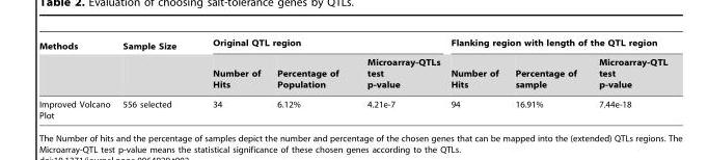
<table><thead><tr><td rowspan="2">Methods</td><td rowspan="2">Sample Size</td><td colspan="3">Original QTL region</td><td colspan="3">Flanking region with length of the QTL region</td></tr><tr><td>Number of Hits</td><td>Percentage of Population</td><td>Microarray-QTLs test p-value</td><td>Number of Hits</td><td>Percentage of sample</td><td>Microarray-QTL test p-value</td></tr></thead><tbody><tr><td>Improved Volcano Plot</td><td>556 selected</td><td>34</td><td>6.12%</td><td>4.21e-7</td><td>94</td><td>16.91%</td><td>7.44e-18</td></tr></tbody></table>